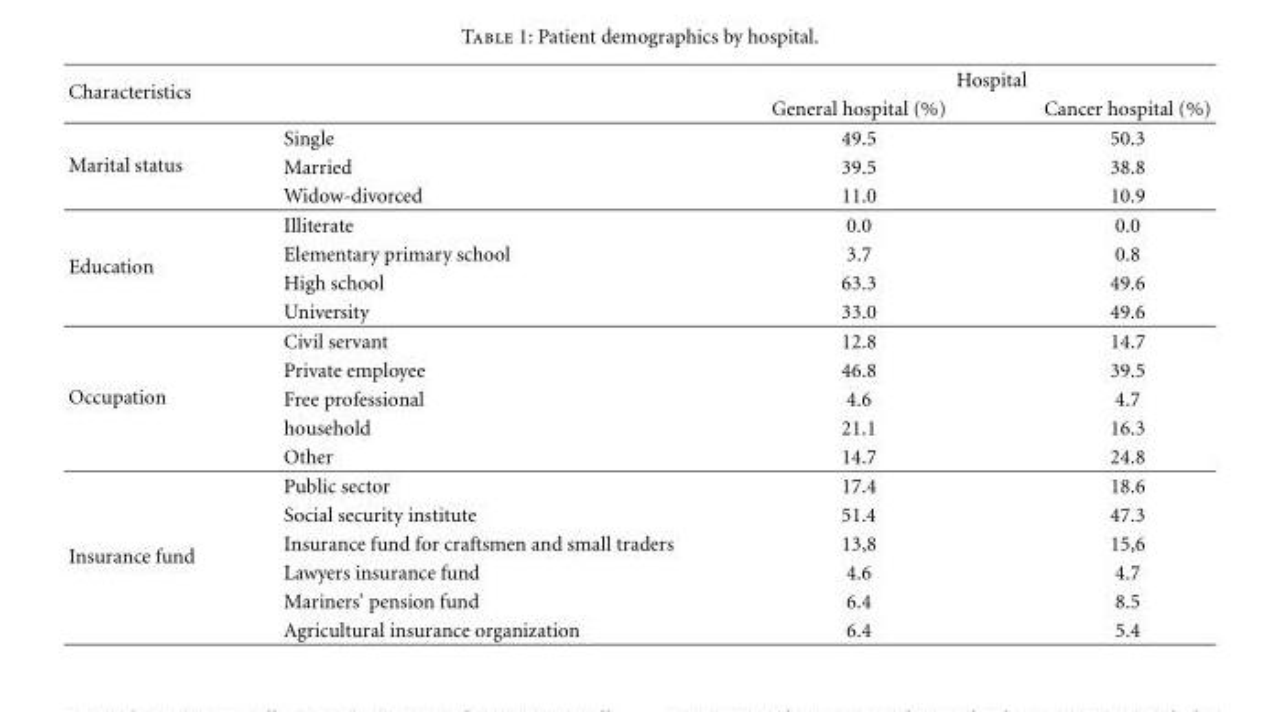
<table><thead><tr><td rowspan="2">Characteristics</td><td rowspan="2"></td><td colspan="2">Hospital</td></tr><tr><td>General hospital (%)</td><td>Cancer hospital (%)</td></tr></thead><tbody><tr><td rowspan="3">Marital status</td><td>Single</td><td>49.5</td><td>50.3</td></tr><tr><td>Married</td><td>39.5</td><td>38.8</td></tr><tr><td>Widow-divorced</td><td>11.0</td><td>10.9</td></tr><tr><td rowspan="4">Education</td><td>Illiterate</td><td>0.0</td><td>0.0</td></tr><tr><td>Elementary primary school</td><td>3.7</td><td>0.8</td></tr><tr><td>High school</td><td>63.3</td><td>49.6</td></tr><tr><td>University</td><td>33.0</td><td>49.6</td></tr><tr><td rowspan="5">Occupation</td><td>Civil servant</td><td>12.8</td><td>14.7</td></tr><tr><td>Private employee</td><td>46.8</td><td>39.5</td></tr><tr><td>Free professional</td><td>4.6</td><td>4.7</td></tr><tr><td>household</td><td>21.1</td><td>16.3</td></tr><tr><td>Other</td><td>14.7</td><td>24.8</td></tr><tr><td rowspan="6">Insurance fund</td><td>Public sector</td><td>17.4</td><td>18.6</td></tr><tr><td>Social security institute</td><td>51.4</td><td>47.3</td></tr><tr><td>Insurance fund for craftsmen and small traders</td><td>13,8</td><td>15,6</td></tr><tr><td>Lawyers insurance fund</td><td>4.6</td><td>4.7</td></tr><tr><td>Mariners’ pension fund</td><td>6.4</td><td>8.5</td></tr><tr><td>Agricultural insurance organization</td><td>6.4</td><td>5.4</td></tr></tbody></table>